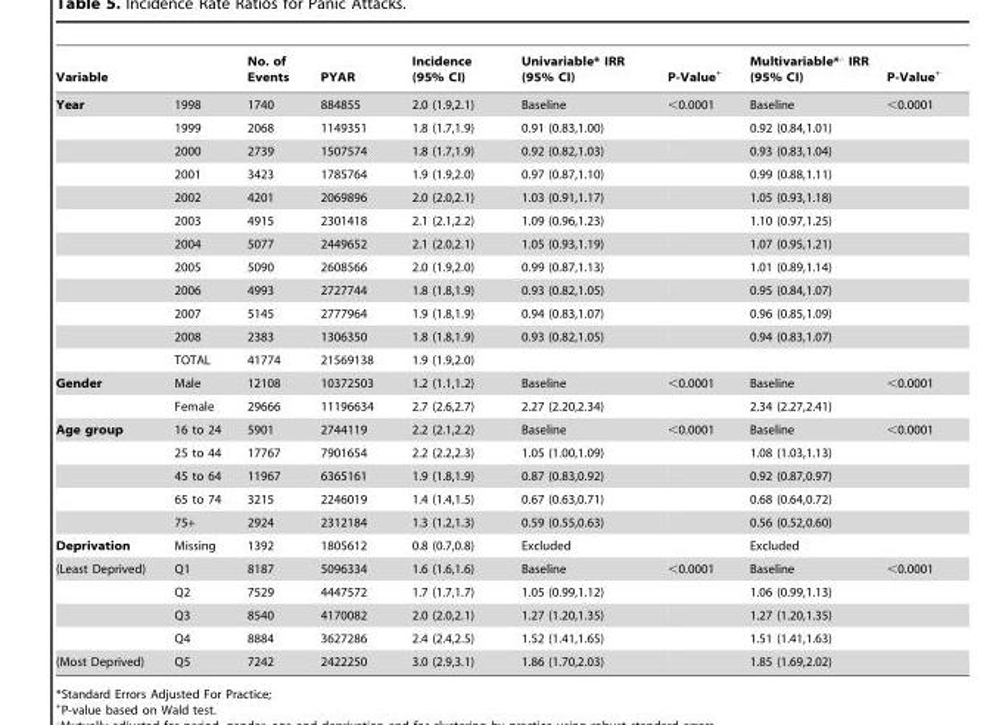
<table><thead><tr><td>Variable</td><td></td><td>No. of Events</td><td>PYAR</td><td>Incidence (95% CI)</td><td>Univariable* IRR (95% CI)</td><td>P-Value+</td><td>Multivariable*‘ IRR (95% CI)</td><td>P-Value+</td></tr></thead><tbody><tr><td rowspan="12">Year</td><td>1998</td><td>1740</td><td>884855</td><td>2.0 (1.9,2.1)</td><td>Baseline</td><td>&lt;0.0001</td><td>Baseline</td><td>&lt;0.0001</td></tr><tr><td>1999</td><td>2068</td><td>1149351</td><td>1.8 (1.7,1.9)</td><td>0.91 (0.83,1.00)</td><td></td><td>0.92 (0.84,1.01)</td><td></td></tr><tr><td>2000</td><td>2739</td><td>1507574</td><td>1.8 (1.7,1.9)</td><td>0.92 (0.82,1.03)</td><td></td><td>0.93 (0.83,1.04)</td><td></td></tr><tr><td>2001</td><td>3423</td><td>1785764</td><td>1.9 (1.9,2.0)</td><td>0.97 (0.87,1.10)</td><td></td><td>0.99 (0.88,1.11)</td><td></td></tr><tr><td>2002</td><td>4201</td><td>2069896</td><td>2.0 (2.0,2.1)</td><td>1.03 (0.91,1.17)</td><td></td><td>1.05 (0.93,1.18)</td><td></td></tr><tr><td>2003</td><td>4915</td><td>2301418</td><td>2.1 (2.1,2.2)</td><td>1.09 (0.96,1.23)</td><td></td><td>1.10 (0.97,1.25)</td><td></td></tr><tr><td>2004</td><td>5077</td><td>2449652</td><td>2.1 (2.0,2.1)</td><td>1.05 (0.93,1.19)</td><td></td><td>1.07 (0.95,1.21)</td><td></td></tr><tr><td>2005</td><td>5090</td><td>2608566</td><td>2.0 (1.9,2.0)</td><td>0.99 (0.87,1.13)</td><td></td><td>1.01 (0.89,1.14)</td><td></td></tr><tr><td>2006</td><td>4993</td><td>2727744</td><td>1.8 (1.8,1.9)</td><td>0.93 (0.82,1.05)</td><td></td><td>0.95 (0.84,1.07)</td><td></td></tr><tr><td>2007</td><td>5145</td><td>2777964</td><td>1.9 (1.8,1.9)</td><td>0.94 (0.83,1.07)</td><td></td><td>0.96 (0.85,1.09)</td><td></td></tr><tr><td>2008</td><td>2383</td><td>1306350</td><td>1.8 (1.8,1.9)</td><td>0.93 (0.82,1.05)</td><td></td><td>0.94 (0.83,1.07)</td><td></td></tr><tr><td>TOTAL</td><td>41774</td><td>21569138</td><td>1.9 (1.9,2.0)</td><td></td><td></td><td></td><td></td></tr><tr><td rowspan="2">Gender</td><td>Male</td><td>12108</td><td>10372503</td><td>1.2 (1.1,1.2)</td><td>Baseline</td><td>&lt;0.0001</td><td>Baseline</td><td>&lt;0.0001</td></tr><tr><td>Female</td><td>29666</td><td>11196634</td><td>2.7 (2.6,2.7)</td><td>2.27 (2.20,2.34)</td><td></td><td>2.34 (2.27,2.41)</td><td></td></tr><tr><td rowspan="5">Age group</td><td>16 to 24</td><td>5901</td><td>2744119</td><td>2.2 (2.1,2.2)</td><td>Baseline</td><td>&lt;0.0001</td><td>Baseline</td><td>&lt;0.0001</td></tr><tr><td>25 to 44</td><td>17767</td><td>7901654</td><td>2.2 (2.2,2.3)</td><td>1.05 (1.00,1.09)</td><td></td><td>1.08 (1.03,1.13)</td><td></td></tr><tr><td>45 to 64</td><td>11967</td><td>6365161</td><td>1.9 (1.8,1.9)</td><td>0.87 (0.83,0.92)</td><td></td><td>0.92 (0.87,0.97)</td><td></td></tr><tr><td>65 to 74</td><td>3215</td><td>2246019</td><td>1.4 (1.4,1.5)</td><td>0.67 (0.63,0.71)</td><td></td><td>0.68 (0.64,0.72)</td><td></td></tr><tr><td>75+</td><td>2924</td><td>2312184</td><td>1.3 (1.2,1.3)</td><td>0.59 (0.55,0.63)</td><td></td><td>0.56 (0.52,0.60)</td><td></td></tr><tr><td>Deprivation</td><td>Missing</td><td>1392</td><td>1805612</td><td>0.8 (0.7,0.8)</td><td>Excluded</td><td></td><td>Excluded</td><td></td></tr><tr><td rowspan="4">(Least Deprived)</td><td>Q1</td><td>8187</td><td>5096334</td><td>1.6 (1.6,1.6)</td><td>Baseline</td><td>&lt;0.0001</td><td>Baseline</td><td>&lt;0.0001</td></tr><tr><td>Q2</td><td>7529</td><td>4447572</td><td>1.7 (1.7,1.7)</td><td>1.05 (0.99,1.12)</td><td></td><td>1.06 (0.99,1.13)</td><td></td></tr><tr><td>Q3</td><td>8540</td><td>4170082</td><td>2.0 (2.0,2.1)</td><td>1.27 (1.20,1.35)</td><td></td><td>1.27 (1.20,1.35)</td><td></td></tr><tr><td>Q4</td><td>8884</td><td>3627286</td><td>2.4 (2.4,2.5)</td><td>1.52 (1.41,1.65)</td><td></td><td>1.51 (1.41,1.63)</td><td></td></tr><tr><td>(Most Deprived)</td><td>Q5</td><td>7242</td><td>2422250</td><td>3.0 (2.9,3.1)</td><td>1.86 (1.70,2.03)</td><td></td><td>1.85 (1.69,2.02)</td><td></td></tr></tbody></table>